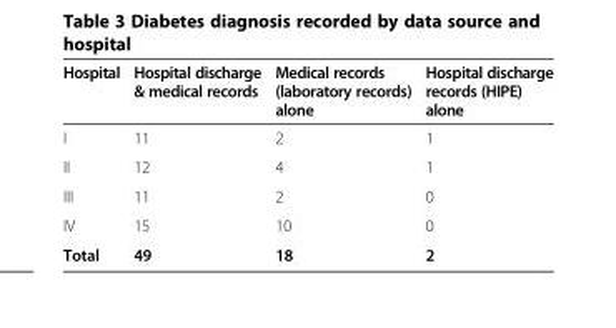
<table><thead><tr><td>Hospital</td><td>Hospital discharge &amp; medical records</td><td>Medical records (laboratory records) alone</td><td>Hospital discharge records (HIPE) alone</td></tr></thead><tbody><tr><td>I</td><td>11</td><td>2</td><td>1</td></tr><tr><td>II</td><td>12</td><td>4</td><td>1</td></tr><tr><td>III</td><td>11</td><td>2</td><td>0</td></tr><tr><td>IV</td><td>15</td><td>10</td><td>0</td></tr><tr><td>Total</td><td>49</td><td>18</td><td>2</td></tr></tbody></table>